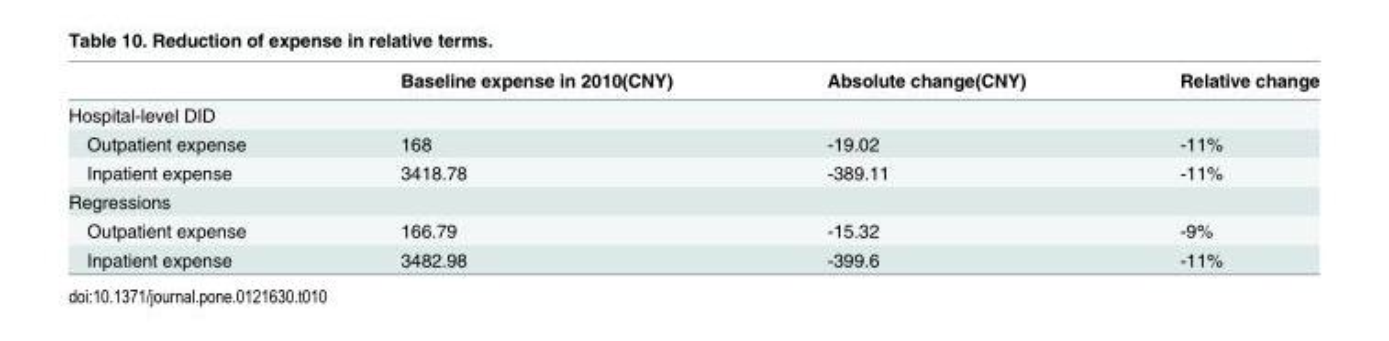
<table><thead><tr><td></td><td>Baseline expense in 2010(CNY)</td><td>Absolute change(CNY)</td><td>Relative change</td></tr></thead><tbody><tr><td colspan="4">Hospital-level DID</td></tr><tr><td>Outpatient expense</td><td>168</td><td>-19.02</td><td>-11%</td></tr><tr><td>Inpatient expense</td><td>3418.78</td><td>-389.11</td><td>-11%</td></tr><tr><td colspan="4">Regressions</td></tr><tr><td>Outpatient expense</td><td>166.79</td><td>-15.32</td><td>-9%</td></tr><tr><td>Inpatient expense</td><td>3482.98</td><td>-399.6</td><td>-11%</td></tr></tbody></table>